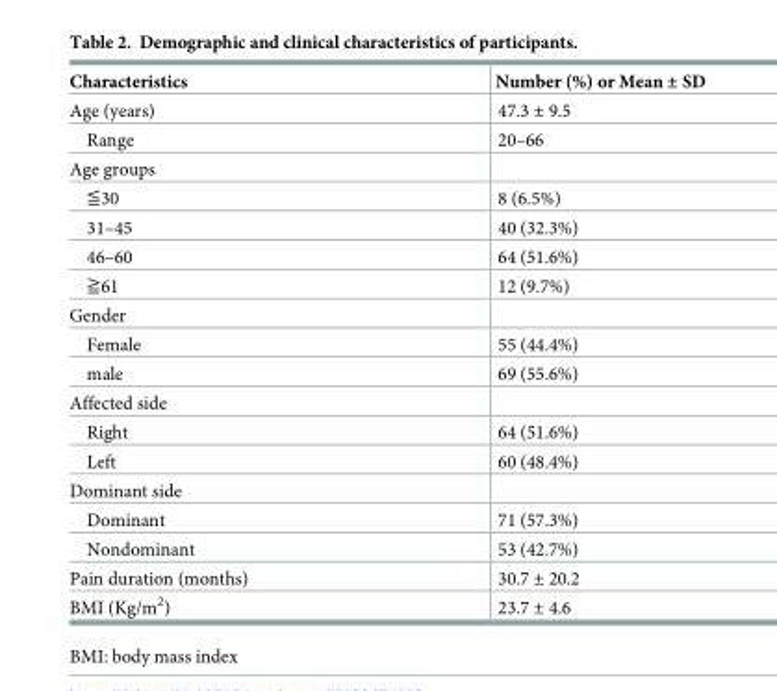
<table><thead><tr><td>Characteristics</td><td>Number (%) or Mean ± SD</td></tr></thead><tbody><tr><td>Age (years)</td><td>47.3 ± 9.5</td></tr><tr><td>Range</td><td>20–66</td></tr><tr><td colspan="2">Age groups</td></tr><tr><td>≦30</td><td>8 (6.5%)</td></tr><tr><td>31–45</td><td>40 (32.3%)</td></tr><tr><td>46–60</td><td>64 (51.6%)</td></tr><tr><td>≧61</td><td>12 (9.7%)</td></tr><tr><td colspan="2">Gender</td></tr><tr><td>Female</td><td>55 (44.4%)</td></tr><tr><td>male</td><td>69 (55.6%)</td></tr><tr><td colspan="2">Affected side</td></tr><tr><td>Right</td><td>64 (51.6%)</td></tr><tr><td>Left</td><td>60 (48.4%)</td></tr><tr><td colspan="2">Dominant side</td></tr><tr><td>Dominant</td><td>71 (57.3%)</td></tr><tr><td>Nondominant</td><td>53 (42.7%)</td></tr><tr><td>Pain duration (months)</td><td>30.7 ± 20.2</td></tr><tr><td>BMI (Kg/m<sup>2</sup>)</td><td>23.7 ± 4.6</td></tr></tbody></table>